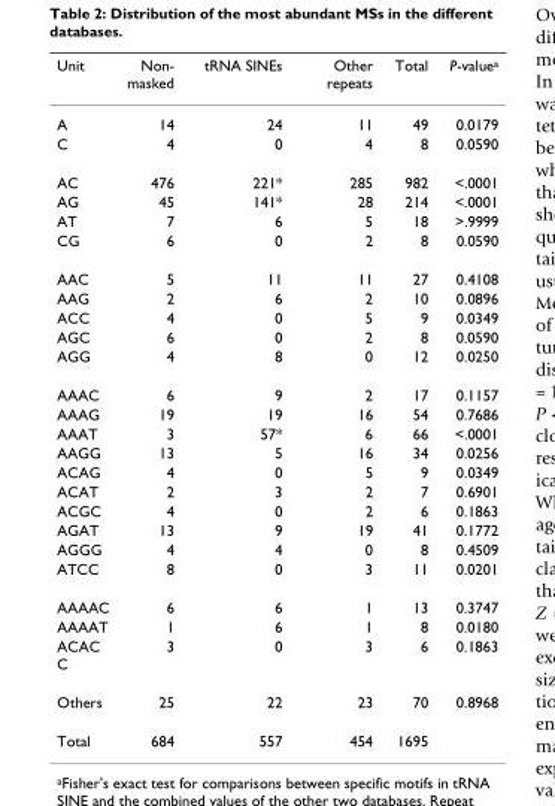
<table><thead><tr><td>Unit</td><td>Non- masked</td><td>tRNA SINEs</td><td>Other repeats</td><td>Total</td><td>P-valuea</td></tr></thead><tbody><tr><td>A</td><td>14</td><td>24</td><td>11</td><td>49</td><td>0.0179</td></tr><tr><td>C</td><td>4</td><td>0</td><td>4</td><td>8</td><td>0.0590</td></tr><tr><td>AC</td><td>476</td><td>221*</td><td>285</td><td>982</td><td>&lt;.0001</td></tr><tr><td>AG</td><td>45</td><td>141*</td><td>28</td><td>214</td><td>&lt;.0001</td></tr><tr><td>AT</td><td>7</td><td>6</td><td>5</td><td>18</td><td>&gt;.9999</td></tr><tr><td>CG</td><td>6</td><td>0</td><td>2</td><td>8</td><td>0.0590</td></tr><tr><td>AAC</td><td>5</td><td>11</td><td>11</td><td>27</td><td>0.4108</td></tr><tr><td>AAG</td><td>2</td><td>6</td><td>2</td><td>10</td><td>0.0896</td></tr><tr><td>ACC</td><td>4</td><td>0</td><td>5</td><td>9</td><td>0.0349</td></tr><tr><td>AGC</td><td>6</td><td>0</td><td>2</td><td>8</td><td>0.0590</td></tr><tr><td>AGG</td><td>4</td><td>8</td><td>0</td><td>12</td><td>0.0250</td></tr><tr><td>AAAC</td><td>6</td><td>9</td><td>2</td><td>17</td><td>0.1157</td></tr><tr><td>AAAG</td><td>19</td><td>19</td><td>16</td><td>54</td><td>0.7686</td></tr><tr><td>AAAT</td><td>3</td><td>57*</td><td>6</td><td>66</td><td>&lt;.0001</td></tr><tr><td>AAGG</td><td>13</td><td>5</td><td>16</td><td>34</td><td>0.0256</td></tr><tr><td>ACAG</td><td>4</td><td>0</td><td>5</td><td>9</td><td>0.0349</td></tr><tr><td>ACAT</td><td>2</td><td>3</td><td>2</td><td>7</td><td>0.6901</td></tr><tr><td>ACGC</td><td>4</td><td>0</td><td>2</td><td>6</td><td>0.1863</td></tr><tr><td>AGAT</td><td>13</td><td>9</td><td>19</td><td>41</td><td>0.1772</td></tr><tr><td>AGGG</td><td>4</td><td>4</td><td>0</td><td>8</td><td>0.4509</td></tr><tr><td>ATCC</td><td>8</td><td>0</td><td>3</td><td>11</td><td>0.0201</td></tr><tr><td>AAAAC</td><td>6</td><td>6</td><td>1</td><td>13</td><td>0.3747</td></tr><tr><td>AAAAT</td><td>1</td><td>6</td><td>1</td><td>8</td><td>0.0180</td></tr><tr><td>ACAC C</td><td>3</td><td>0</td><td>3</td><td>6</td><td>0.1863</td></tr><tr><td>Others</td><td>25</td><td>22</td><td>23</td><td>70</td><td>0.8968</td></tr><tr><td>Total</td><td>684</td><td>557</td><td>454</td><td>1695</td><td></td></tr></tbody></table>